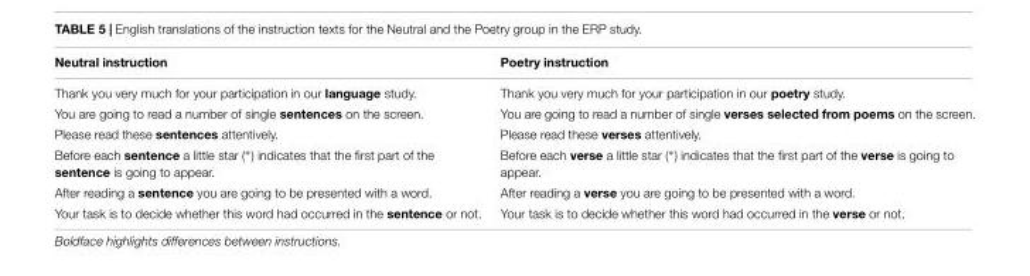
<table><thead><tr><td>Neutral instruction</td><td>Poetry instruction</td></tr></thead><tbody><tr><td>Thank you very much for your participation in our language study.</td><td>Thank you very much for your participation in our poetry study.</td></tr><tr><td>You are going to read a number of single sentences on the screen.</td><td>You are going to read a number of single verses selected from poems on the screen.</td></tr><tr><td>Please read these sentences attentively.</td><td>Please read these verses attentively.</td></tr><tr><td>Before each sentence a little star (∗) indicates that the first part of the sentence is going to appear.</td><td>Before each verse a little star (∗) indicates that the first part of the verse is going to appear.</td></tr><tr><td>After reading a sentence you are going to be presented with a word.</td><td>After reading a verse you are going to be presented with a word.</td></tr><tr><td>Your task is to decide whether this word had occurred in the sentence or not.</td><td>Your task is to decide whether this word had occurred in the verse or not.</td></tr></tbody></table>